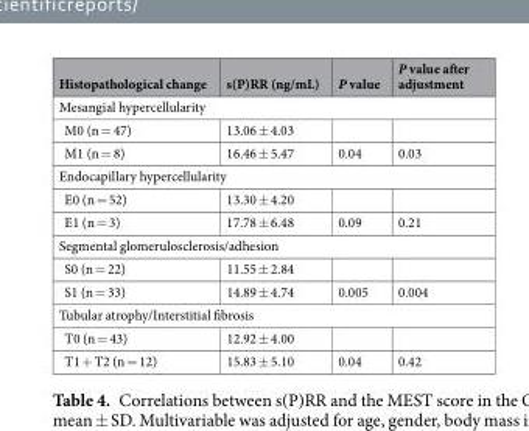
<table><thead><tr><td>Histopathological change</td><td>s(P)RR (ng/mL)</td><td>P value</td><td>P value after adjustment</td></tr></thead><tbody><tr><td colspan="4">Mesangial hypercellularity</td></tr><tr><td>M0 (n = 47)</td><td>13.06 ± 4.03</td><td></td><td></td></tr><tr><td>M1 (n = 8)</td><td>16.46 ± 5.47</td><td>0.04</td><td>0.03</td></tr><tr><td colspan="4">Endocapillary hypercellularity</td></tr><tr><td>E0 (n = 52)</td><td>13.30 ± 4.20</td><td></td><td></td></tr><tr><td>E1 (n = 3)</td><td>17.78 ± 6.48</td><td>0.09</td><td>0.21</td></tr><tr><td colspan="4">Segmental glomerulosclerosis/adhesion</td></tr><tr><td>S0 (n = 22)</td><td>11.55 ± 2.84</td><td></td><td></td></tr><tr><td>S1 (n = 33)</td><td>14.89 ± 4.74</td><td>0.005</td><td>0.004</td></tr><tr><td colspan="4">Tubular atrophy/Interstitial fibrosis</td></tr><tr><td>T0 (n = 43)</td><td>12.92 ± 4.00</td><td></td><td></td></tr><tr><td>T1 + T2 (n = 12)</td><td>15.83 ± 5.10</td><td>0.04</td><td>0.42</td></tr></tbody></table>